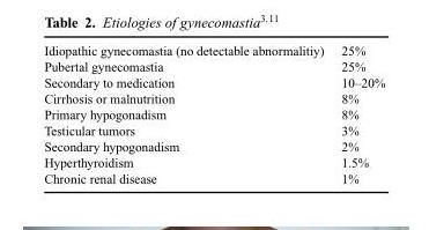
<table><tbody><tr><td>Idiopathic gynecomastia (no detectable abnormalitiy)</td><td>25%</td></tr><tr><td>Pubertal gynecomastia</td><td>25%</td></tr><tr><td>Secondary to medication</td><td>10–20%</td></tr><tr><td>Cirrhosis or malnutrition</td><td>8%</td></tr><tr><td>Primary hypogonadism</td><td>8%</td></tr><tr><td>Testicular tumors</td><td>3%</td></tr><tr><td>Secondary hypogonadism</td><td>2%</td></tr><tr><td>Hyperthyroidism</td><td>1.5%</td></tr><tr><td>Chronic renal disease</td><td>1%</td></tr></tbody></table>